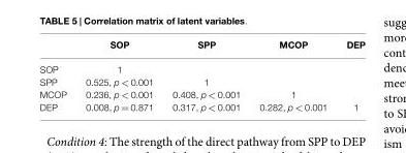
<table><thead><tr><td></td><td>SOP</td><td>SPP</td><td>MCOP</td><td>DEP</td></tr></thead><tbody><tr><td>SOP</td><td>1</td><td></td><td></td><td></td></tr><tr><td>SPP</td><td>0.525, p &lt; 0.001</td><td>1</td><td></td><td></td></tr><tr><td>MCOP</td><td>0.236, p &lt; 0.001</td><td>0.408, p &lt; 0.001</td><td>1</td><td></td></tr><tr><td>DEP</td><td>0.008, p = 0.871</td><td>0.317, p &lt; 0.001</td><td>0.282, p &lt; 0.001</td><td>1</td></tr></tbody></table>